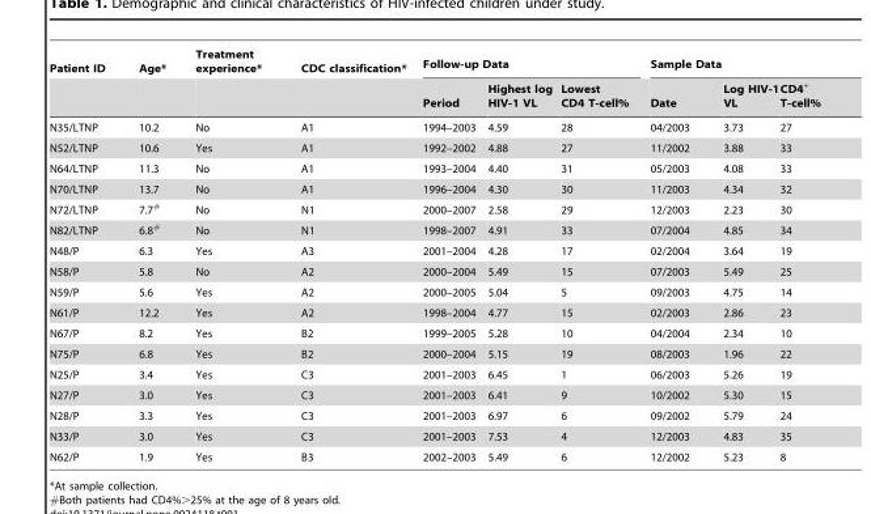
<table><thead><tr><td rowspan="2">Patient ID</td><td rowspan="2">Age*</td><td rowspan="2">Treatment experience*</td><td rowspan="2">CDC classification*</td><td colspan="3">Follow-up Data</td><td colspan="3">Sample Data</td></tr><tr><td>Period</td><td>Highest log HIV-1 VL</td><td>Lowest CD4 T-cell%</td><td>Date</td><td>Log HIV-1 VL</td><td>CD4<sup>+</sup> T-cell%</td></tr></thead><tbody><tr><td>N35/LTNP</td><td>10.2</td><td>No</td><td>A1</td><td>1994–2003</td><td>4.59</td><td>28</td><td>04/2003</td><td>3.73</td><td>27</td></tr><tr><td>N52/LTNP</td><td>10.6</td><td>Yes</td><td>A1</td><td>1992–2002</td><td>4.88</td><td>27</td><td>11/2002</td><td>3.88</td><td>33</td></tr><tr><td>N64/LTNP</td><td>11.3</td><td>No</td><td>A1</td><td>1993–2004</td><td>4.40</td><td>31</td><td>05/2003</td><td>4.08</td><td>33</td></tr><tr><td>N70/LTNP</td><td>13.7</td><td>No</td><td>A1</td><td>1996–2004</td><td>4.30</td><td>30</td><td>11/2003</td><td>4.34</td><td>32</td></tr><tr><td>N72/LTNP</td><td>7.7<sup>#</sup></td><td>No</td><td>N1</td><td>2000–2007</td><td>2.58</td><td>29</td><td>12/2003</td><td>2.23</td><td>30</td></tr><tr><td>N82/LTNP</td><td>6.8<sup>#</sup></td><td>No</td><td>N1</td><td>1998–2007</td><td>4.91</td><td>33</td><td>07/2004</td><td>4.85</td><td>34</td></tr><tr><td>N48/P</td><td>6.3</td><td>Yes</td><td>A3</td><td>2001–2004</td><td>4.28</td><td>17</td><td>02/2004</td><td>3.64</td><td>19</td></tr><tr><td>N58/P</td><td>5.8</td><td>No</td><td>A2</td><td>2000–2004</td><td>5.49</td><td>15</td><td>07/2003</td><td>5.49</td><td>25</td></tr><tr><td>N59/P</td><td>5.6</td><td>Yes</td><td>A2</td><td>2000–2005</td><td>5.04</td><td>5</td><td>09/2003</td><td>4.75</td><td>14</td></tr><tr><td>N61/P</td><td>12.2</td><td>Yes</td><td>A2</td><td>1998–2004</td><td>4.77</td><td>15</td><td>02/2003</td><td>2.86</td><td>23</td></tr><tr><td>N67/P</td><td>8.2</td><td>Yes</td><td>B2</td><td>1999–2005</td><td>5.28</td><td>10</td><td>04/2004</td><td>2.34</td><td>10</td></tr><tr><td>N75/P</td><td>6.8</td><td>Yes</td><td>B2</td><td>2000–2004</td><td>5.15</td><td>19</td><td>08/2003</td><td>1.96</td><td>22</td></tr><tr><td>N25/P</td><td>3.4</td><td>Yes</td><td>C3</td><td>2001–2003</td><td>6.45</td><td>1</td><td>06/2003</td><td>5.26</td><td>19</td></tr><tr><td>N27/P</td><td>3.0</td><td>Yes</td><td>C3</td><td>2001–2003</td><td>6.41</td><td>9</td><td>10/2002</td><td>5.30</td><td>15</td></tr><tr><td>N28/P</td><td>3.3</td><td>Yes</td><td>C3</td><td>2001–2003</td><td>6.97</td><td>6</td><td>09/2002</td><td>5.79</td><td>24</td></tr><tr><td>N33/P</td><td>3.0</td><td>Yes</td><td>C3</td><td>2001–2003</td><td>7.53</td><td>4</td><td>12/2003</td><td>4.83</td><td>35</td></tr><tr><td>N62/P</td><td>1.9</td><td>Yes</td><td>B3</td><td>2002–2003</td><td>5.49</td><td>6</td><td>12/2002</td><td>5.23</td><td>8</td></tr></tbody></table>